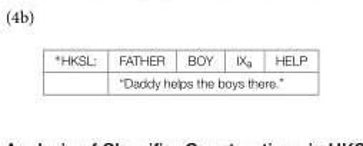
<table><tbody><tr><td rowspan="2">∗HKSL:</td><td>FATHER</td><td>BOY</td><td>IX<sub>a</sub></td><td>HELP</td></tr><tr><td colspan="4">“Daddy helps the boys there.”</td></tr></tbody></table>